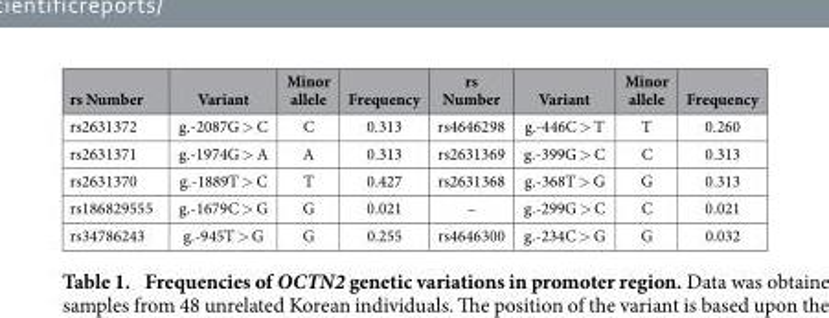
<table><thead><tr><td>rs Number</td><td>Variant</td><td>Minor allele</td><td>Frequency</td><td>rs Number</td><td>Variant</td><td>Minor allele</td><td>Frequency</td></tr></thead><tbody><tr><td>rs2631372</td><td>g.-2087G &gt; C</td><td>C</td><td>0.313</td><td>rs4646298</td><td>g.-446C &gt; T</td><td>T</td><td>0.260</td></tr><tr><td>rs2631371</td><td>g.-1974G &gt; A</td><td>A</td><td>0.313</td><td>rs2631369</td><td>g.-399G &gt; C</td><td>C</td><td>0.313</td></tr><tr><td>rs2631370</td><td>g.-1889T &gt; C</td><td>T</td><td>0.427</td><td>rs2631368</td><td>g.-368T &gt; G</td><td>G</td><td>0.313</td></tr><tr><td>rs186829555</td><td>g.-1679C &gt; G</td><td>G</td><td>0.021</td><td>–</td><td>g.-299G &gt; C</td><td>C</td><td>0.021</td></tr><tr><td>rs34786243</td><td>g.-945T &gt; G</td><td>G</td><td>0.255</td><td>rs4646300</td><td>g.-234C &gt; G</td><td>G</td><td>0.032</td></tr></tbody></table>